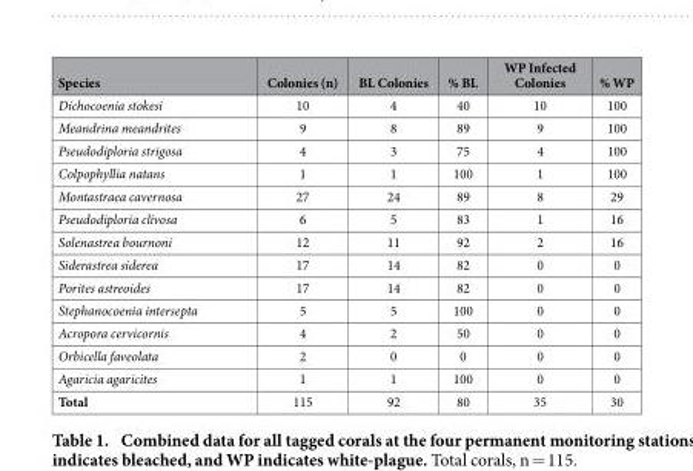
<table><thead><tr><td>Species</td><td>Colonies (n)</td><td>BL Colonies</td><td>% BL</td><td>WP Infected Colonies</td><td>% WP</td></tr></thead><tbody><tr><td>Dichocoenia stokesi</td><td>10</td><td>4</td><td>40</td><td>10</td><td>100</td></tr><tr><td>Meandrina meandrites</td><td>9</td><td>8</td><td>89</td><td>9</td><td>100</td></tr><tr><td>Pseudodiploria strigosa</td><td>4</td><td>3</td><td>75</td><td>4</td><td>100</td></tr><tr><td>Colpophyllia natans</td><td>1</td><td>1</td><td>100</td><td>1</td><td>100</td></tr><tr><td>Montastraea cavernosa</td><td>27</td><td>24</td><td>89</td><td>8</td><td>29</td></tr><tr><td>Pseudodiploria clivosa</td><td>6</td><td>5</td><td>83</td><td>1</td><td>16</td></tr><tr><td>Solenastrea bournoni</td><td>12</td><td>11</td><td>92</td><td>2</td><td>16</td></tr><tr><td>Siderastrea siderea</td><td>17</td><td>14</td><td>82</td><td>0</td><td>0</td></tr><tr><td>Porites astreoides</td><td>17</td><td>14</td><td>82</td><td>0</td><td>0</td></tr><tr><td>Stephanocoenia intersepta</td><td>5</td><td>5</td><td>100</td><td>0</td><td>0</td></tr><tr><td>Acropora cervicornis</td><td>4</td><td>2</td><td>50</td><td>0</td><td>0</td></tr><tr><td>Orbicella faveolata</td><td>2</td><td>0</td><td>0</td><td>0</td><td>0</td></tr><tr><td>Agaricia agaricites</td><td>1</td><td>1</td><td>100</td><td>0</td><td>0</td></tr><tr><td>Total</td><td>115</td><td>92</td><td>80</td><td>35</td><td>30</td></tr></tbody></table>